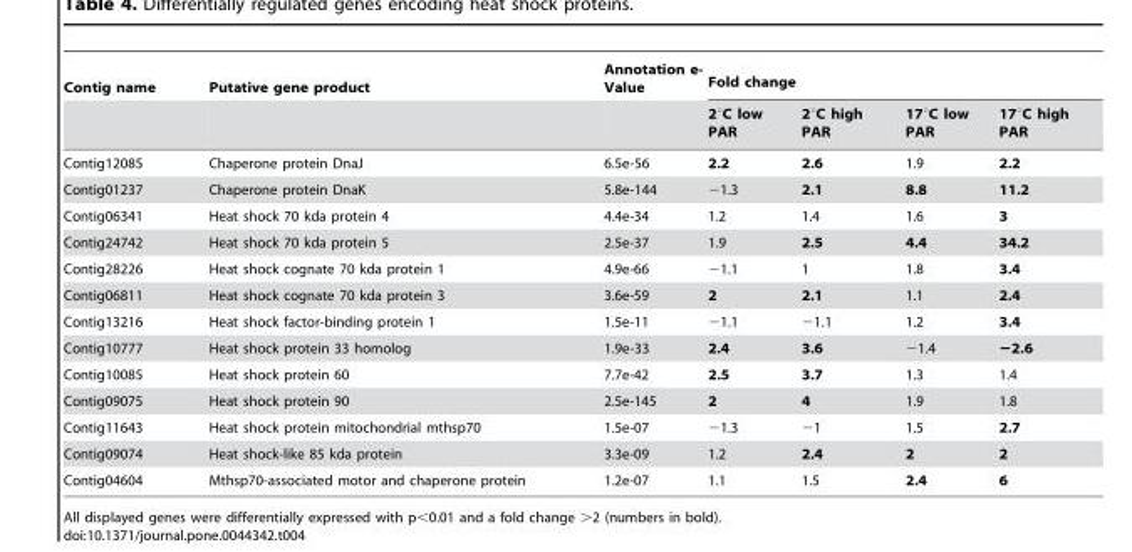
<table><thead><tr><td rowspan="2">Contig name</td><td rowspan="2">Putative gene product</td><td rowspan="2">Annotation e- Value</td><td colspan="4">Fold change</td></tr><tr><td>2°C low PAR</td><td>2°C high PAR</td><td>17°C low PAR</td><td>17°C high PAR</td></tr></thead><tbody><tr><td>Contig12085</td><td>Chaperone protein DnaJ</td><td>6.5e-56</td><td>2.2</td><td>2.6</td><td>1.9</td><td>2.2</td></tr><tr><td>Contig01237</td><td>Chaperone protein DnaK</td><td>5.8e-144</td><td>−1.3</td><td>2.1</td><td>8.8</td><td>11.2</td></tr><tr><td>Contig06341</td><td>Heat shock 70 kda protein 4</td><td>4.4e-34</td><td>1.2</td><td>1.4</td><td>1.6</td><td>3</td></tr><tr><td>Contig24742</td><td>Heat shock 70 kda protein 5</td><td>2.5e-37</td><td>1.9</td><td>2.5</td><td>4.4</td><td>34.2</td></tr><tr><td>Contig28226</td><td>Heat shock cognate 70 kda protein 1</td><td>4.9e-66</td><td>−1.1</td><td>1</td><td>1.8</td><td>3.4</td></tr><tr><td>Contig06811</td><td>Heat shock cognate 70 kda protein 3</td><td>3.6e-59</td><td>2</td><td>2.1</td><td>1.1</td><td>2.4</td></tr><tr><td>Contig13216</td><td>Heat shock factor-binding protein 1</td><td>1.5e-11</td><td>−1.1</td><td>−1.1</td><td>1.2</td><td>3.4</td></tr><tr><td>Contig10777</td><td>Heat shock protein 33 homolog</td><td>1.9e-33</td><td>2.4</td><td>3.6</td><td>−1.4</td><td>−2.6</td></tr><tr><td>Contig10085</td><td>Heat shock protein 60</td><td>7.7e-42</td><td>2.5</td><td>3.7</td><td>1.3</td><td>1.4</td></tr><tr><td>Contig09075</td><td>Heat shock protein 90</td><td>2.5e-145</td><td>2</td><td>4</td><td>1.9</td><td>1.8</td></tr><tr><td>Contig11643</td><td>Heat shock protein mitochondrial mthsp70</td><td>1.5e-07</td><td>−1.3</td><td>−1</td><td>1.5</td><td>2.7</td></tr><tr><td>Contig09074</td><td>Heat shock-like 85 kda protein</td><td>3.3e-09</td><td>1.2</td><td>2.4</td><td>2</td><td>2</td></tr><tr><td>Contig04604</td><td>Mthsp70-associated motor and chaperone protein</td><td>1.2e-07</td><td>1.1</td><td>1.5</td><td>2.4</td><td>6</td></tr></tbody></table>